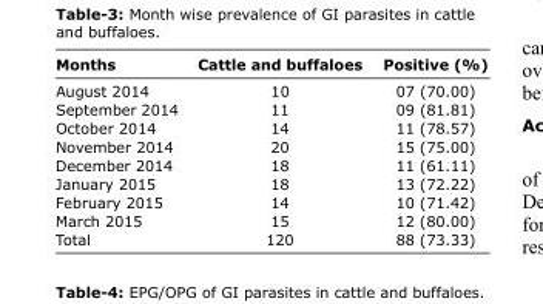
<table><thead><tr><td>Months</td><td>Cattle and buffaloes</td><td>Positive (%)</td></tr></thead><tbody><tr><td>August 2014</td><td>10</td><td>07 (70.00)</td></tr><tr><td>September 2014</td><td>11</td><td>09 (81.81)</td></tr><tr><td>October 2014</td><td>14</td><td>11 (78.57)</td></tr><tr><td>November 2014</td><td>20</td><td>15 (75.00)</td></tr><tr><td>December 2014</td><td>18</td><td>11 (61.11)</td></tr><tr><td>January 2015</td><td>18</td><td>13 (72.22)</td></tr><tr><td>February 2015</td><td>14</td><td>10 (71.42)</td></tr><tr><td>March 2015</td><td>15</td><td>12 (80.00)</td></tr><tr><td>Total</td><td>120</td><td>88 (73.33)</td></tr></tbody></table>